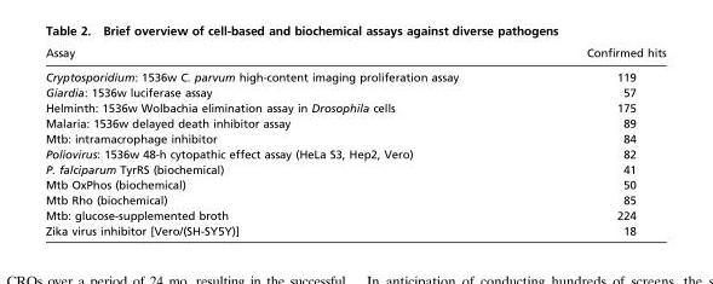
<table><thead><tr><td>Assay</td><td>Confirmed hits</td></tr></thead><tbody><tr><td>Cryptosporidium: 1536w C. parvum high-content imaging proliferation assay</td><td>119</td></tr><tr><td>Giardia: 1536w luciferase assay</td><td>57</td></tr><tr><td>Helminth: 1536w Wolbachia elimination assay in Drosophila cells</td><td>175</td></tr><tr><td>Malaria: 1536w delayed death inhibitor assay</td><td>89</td></tr><tr><td>Mtb: intramacrophage inhibitor</td><td>84</td></tr><tr><td>Poliovirus: 1536w 48-h cytopathic effect assay (HeLa S3, Hep2, Vero)</td><td>82</td></tr><tr><td>P. falciparum TyrRS (biochemical)</td><td>41</td></tr><tr><td>Mtb OxPhos (biochemical)</td><td>50</td></tr><tr><td>Mtb Rho (biochemical)</td><td>85</td></tr><tr><td>Mtb: glucose-supplemented broth</td><td>224</td></tr><tr><td>Zika virus inhibitor [Vero/(SH-SY5Y)]</td><td>18</td></tr></tbody></table>